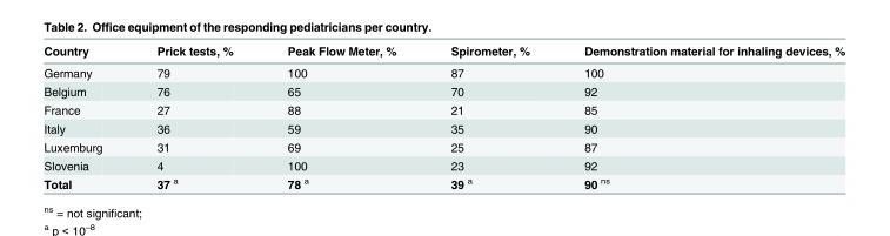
<table><thead><tr><td>Country</td><td>Prick tests, %</td><td>Peak Flow Meter, %</td><td>Spirometer, %</td><td>Demonstration material for inhaling devices, %</td></tr></thead><tbody><tr><td>Germany</td><td>79</td><td>100</td><td>87</td><td>100</td></tr><tr><td>Belgium</td><td>76</td><td>65</td><td>70</td><td>92</td></tr><tr><td>France</td><td>27</td><td>88</td><td>21</td><td>85</td></tr><tr><td>Italy</td><td>36</td><td>59</td><td>35</td><td>90</td></tr><tr><td>Luxemburg</td><td>31</td><td>69</td><td>25</td><td>87</td></tr><tr><td>Slovenia</td><td>4</td><td>100</td><td>23</td><td>92</td></tr><tr><td>Total</td><td>37 <sup>a</sup></td><td>78 <sup>a</sup></td><td>39 <sup>a</sup></td><td>90 <sup>ns</sup></td></tr></tbody></table>